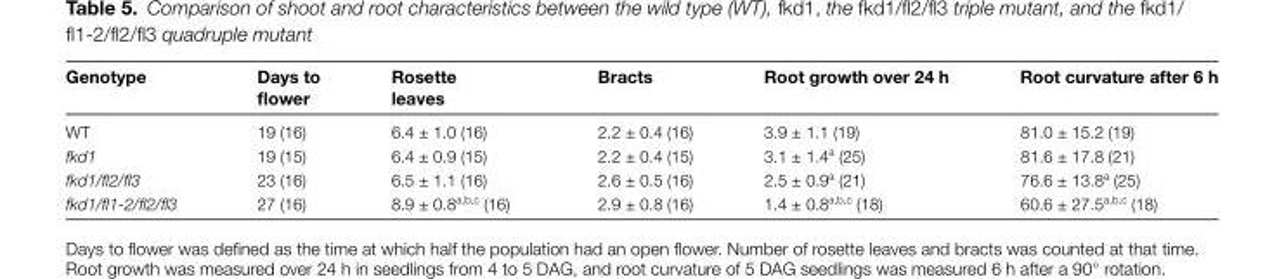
<table><thead><tr><td>Genotype</td><td>Days to flower</td><td>Rosette leaves</td><td>Bracts</td><td>Root growth over 24 h</td><td>Root curvature after 6 h</td></tr></thead><tbody><tr><td>WT</td><td>19 (16)</td><td>6.4 ± 1.0 (16)</td><td>2.2 ± 0.4 (16)</td><td>3.9 ± 1.1 (19)</td><td>81.0 ± 15.2 (19)</td></tr><tr><td>fkd1</td><td>19 (15)</td><td>6.4 ± 0.9 (15)</td><td>2.2 ± 0.4 (15)</td><td>3.1 ± 1.4<sup>a</sup> (25)</td><td>81.6 ± 17.8 (21)</td></tr><tr><td>fkd1/fl2/fl3</td><td>23 (16)</td><td>6.5 ± 1.1 (16)</td><td>2.6 ± 0.5 (16)</td><td>2.5 ± 0.9<sup>a</sup> (21)</td><td>76.6 ± 13.8<sup>a</sup> (25)</td></tr><tr><td>fkd1/fl1-2/fl2/fl3</td><td>27 (16)</td><td>8.9 ± 0.8<sup>a,b,c</sup> (16)</td><td>2.9 ± 0.8 (16)</td><td>1.4 ± 0.8<sup>a,b,c</sup> (18)</td><td>60.6 ± 27.5<sup>a,b,c</sup> (18)</td></tr></tbody></table>